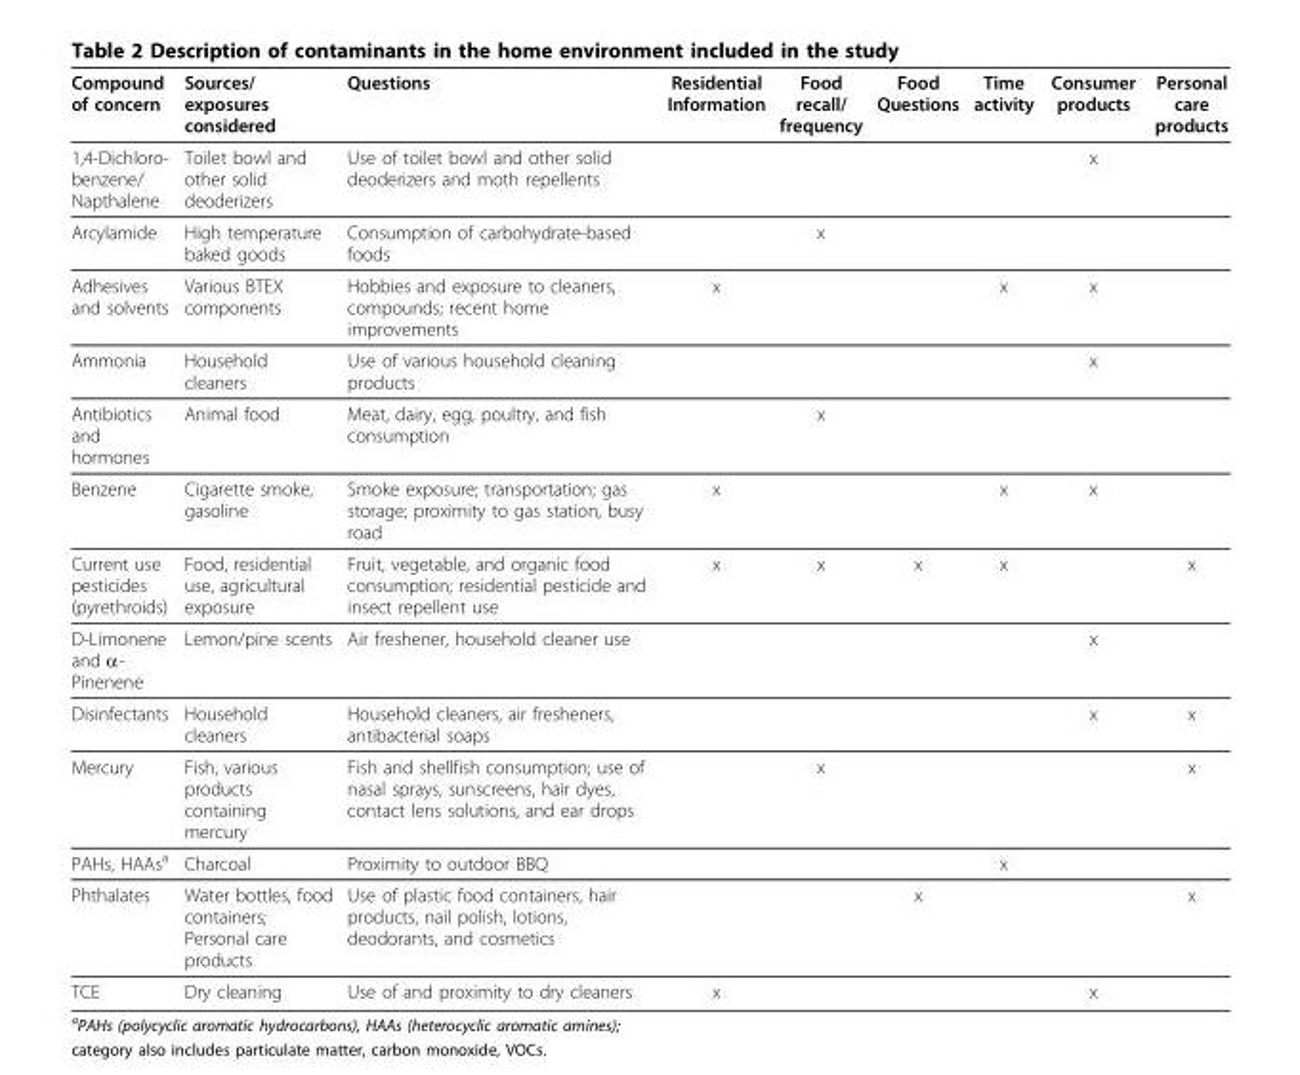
<table><thead><tr><td>Compound of concern</td><td>Sources/ exposures considered</td><td>Questions</td><td>Residential Information</td><td>Food recall/ frequency</td><td>Food Questions</td><td>Time activity</td><td>Consumer products</td><td>Personal care products</td></tr></thead><tbody><tr><td>1,4-Dichloro- benzene/ Napthalene</td><td>Toilet bowl and other solid deoderizers</td><td>Use of toilet bowl and other solid deoderizers and moth repellents</td><td></td><td></td><td></td><td></td><td>x</td><td></td></tr><tr><td>Arcylamide</td><td>High temperature baked goods</td><td>Consumption of carbohydrate-based foods</td><td></td><td>x</td><td></td><td></td><td></td><td></td></tr><tr><td>Adhesives and solvents</td><td>Various BTEX components</td><td>Hobbies and exposure to cleaners, compounds; recent home improvements</td><td>x</td><td></td><td></td><td>x</td><td>x</td><td></td></tr><tr><td>Ammonia</td><td>Household cleaners</td><td>Use of various household cleaning products</td><td></td><td></td><td></td><td></td><td>x</td><td></td></tr><tr><td>Antibiotics and hormones</td><td>Animal food</td><td>Meat, dairy, egg, poultry, and fish consumption</td><td></td><td>x</td><td></td><td></td><td></td><td></td></tr><tr><td>Benzene</td><td>Cigarette smoke, gasoline</td><td>Smoke exposure; transportation; gas storage; proximity to gas station, busy road</td><td>x</td><td></td><td></td><td>x</td><td>x</td><td></td></tr><tr><td>Current use pesticides (pyrethroids)</td><td>Food, residential use, agricultural exposure</td><td>Fruit, vegetable, and organic food consumption; residential pesticide and insect repellent use</td><td>x</td><td>x</td><td>x</td><td>x</td><td></td><td>x</td></tr><tr><td>D-Limonene and α- Pinenene</td><td>Lemon/pine scents</td><td>Air freshener, household cleaner use</td><td></td><td></td><td></td><td></td><td>x</td><td></td></tr><tr><td>Disinfectants</td><td>Household cleaners</td><td>Household cleaners, air fresheners, antibacterial soaps</td><td></td><td></td><td></td><td></td><td>x</td><td>x</td></tr><tr><td>Mercury</td><td>Fish, various products containing mercury</td><td>Fish and shellfish consumption; use of nasal sprays, sunscreens, hair dyes, contact lens solutions, and ear drops</td><td></td><td>x</td><td></td><td></td><td></td><td>x</td></tr><tr><td>PAHs, HAAs<sup>a</sup></td><td>Charcoal</td><td>Proximity to outdoor BBQ</td><td></td><td></td><td></td><td>x</td><td></td><td></td></tr><tr><td>Phthalates</td><td>Water bottles, food containers; Personal care products</td><td>Use of plastic food containers, hair products, nail polish, lotions, deodorants, and cosmetics</td><td></td><td></td><td>x</td><td></td><td></td><td>x</td></tr><tr><td>TCE</td><td>Dry cleaning</td><td>Use of and proximity to dry cleaners</td><td>x</td><td></td><td></td><td></td><td>x</td><td></td></tr></tbody></table>